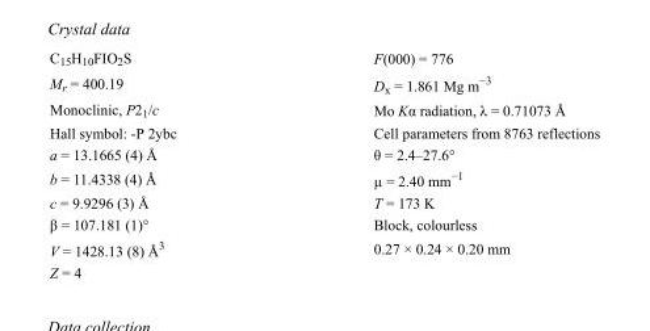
<table><tbody><tr><td>C<sub>15</sub>H<sub>10</sub>FIO<sub>2</sub>S</td><td>F(000) = 776</td></tr><tr><td>M<sub>r</sub> = 400.19</td><td>D<sub>x</sub> = 1.861 Mg m<sup>−3</sup></td></tr><tr><td>Monoclinic, P2<sub>1</sub>/c</td><td>Mo Kα radiation, λ = 0.71073 Å</td></tr><tr><td>Hall symbol: -P 2ybc</td><td>Cell parameters from 8763 reflections</td></tr><tr><td>a = 13.1665 (4) Å</td><td>θ = 2.4–27.6°</td></tr><tr><td>b = 11.4338 (4) Å</td><td>µ = 2.40 mm<sup>−1</sup></td></tr><tr><td>c = 9.9296 (3) Å</td><td>T = 173 K</td></tr><tr><td>β = 107.181 (1)°</td><td>Block, colourless</td></tr><tr><td>V = 1428.13 (8) Å<sup>3</sup></td><td>0.27 × 0.24 × 0.20 mm</td></tr><tr><td>Z = 4</td><td></td></tr></tbody></table>